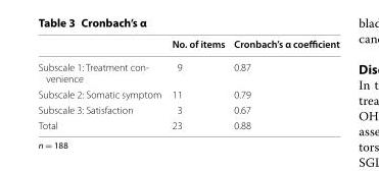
<table><thead><tr><td></td><td>No. of items</td><td>Cronbach’s α coefficient</td></tr></thead><tbody><tr><td>Subscale 1: Treatment con- venience</td><td>9</td><td>0.87</td></tr><tr><td>Subscale 2: Somatic symptom</td><td>11</td><td>0.79</td></tr><tr><td>Subscale 3: Satisfaction</td><td>3</td><td>0.67</td></tr><tr><td>Total</td><td>23</td><td>0.88</td></tr></tbody></table>